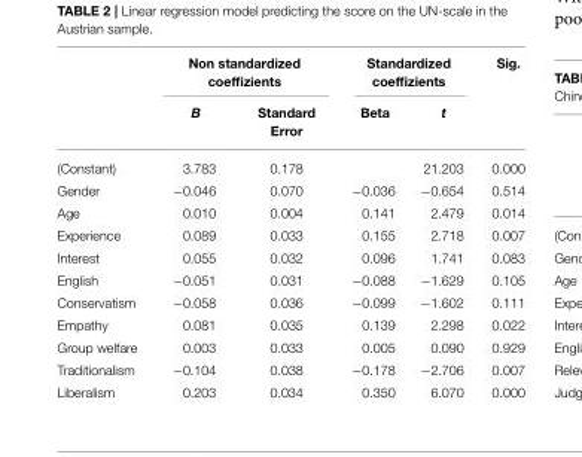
<table><thead><tr><td rowspan="2"></td><td colspan="2">Non standardized coeffizients</td><td colspan="2">Standardized coeffizients</td><td rowspan="2">Sig.</td></tr><tr><td>B</td><td>Standard Error</td><td>Beta</td><td>t</td></tr></thead><tbody><tr><td>(Constant)</td><td>3.783</td><td>0.178</td><td></td><td>21.203</td><td>0.000</td></tr><tr><td>Gender</td><td>−0.046</td><td>0.070</td><td>−0.036</td><td>−0.654</td><td>0.514</td></tr><tr><td>Age</td><td>0.010</td><td>0.004</td><td>0.141</td><td>2.479</td><td>0.014</td></tr><tr><td>Experience</td><td>0.089</td><td>0.033</td><td>0.155</td><td>2.718</td><td>0.007</td></tr><tr><td>Interest</td><td>0.055</td><td>0.032</td><td>0.096</td><td>1.741</td><td>0.083</td></tr><tr><td>English</td><td>−0.051</td><td>0.031</td><td>−0.088</td><td>−1.629</td><td>0.105</td></tr><tr><td>Conservatism</td><td>−0.058</td><td>0.036</td><td>−0.099</td><td>−1.602</td><td>0.111</td></tr><tr><td>Empathy</td><td>0.081</td><td>0.035</td><td>0.139</td><td>2.298</td><td>0.022</td></tr><tr><td>Group welfare</td><td>0.003</td><td>0.033</td><td>0.005</td><td>0.090</td><td>0.929</td></tr><tr><td>Traditionalism</td><td>−0.104</td><td>0.038</td><td>−0.178</td><td>−2.706</td><td>0.007</td></tr><tr><td>Liberalism</td><td>0.203</td><td>0.034</td><td>0.350</td><td>6.070</td><td>0.000</td></tr></tbody></table>